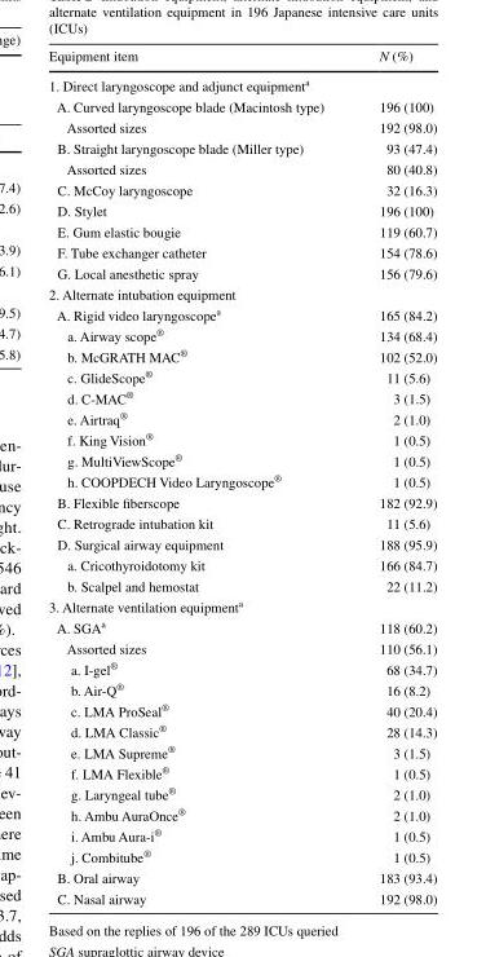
<table><thead><tr><td>Equipment item</td><td>N (%)</td></tr></thead><tbody><tr><td colspan="2">1. Direct laryngoscope and adjunct equipment<sup>a</sup></td></tr><tr><td>A. Curved laryngoscope blade (Macintosh type)</td><td>196 (100)</td></tr><tr><td>Assorted sizes</td><td>192 (98.0)</td></tr><tr><td>B. Straight laryngoscope blade (Miller type)</td><td>93 (47.4)</td></tr><tr><td>Assorted sizes</td><td>80 (40.8)</td></tr><tr><td>C. McCoy laryngoscope</td><td>32 (16.3)</td></tr><tr><td>D. Stylet</td><td>196 (100)</td></tr><tr><td>E. Gum elastic bougie</td><td>119 (60.7)</td></tr><tr><td>F. Tube exchanger catheter</td><td>154 (78.6)</td></tr><tr><td>G. Local anesthetic spray</td><td>156 (79.6)</td></tr><tr><td colspan="2">2. Alternate intubation equipment</td></tr><tr><td>A. Rigid video laryngoscope<sup>a</sup></td><td>165 (84.2)</td></tr><tr><td>a. Airway scope<sup>®</sup></td><td>134 (68.4)</td></tr><tr><td>b. McGRATH MAC<sup>®</sup></td><td>102 (52.0)</td></tr><tr><td>c. GlideScope<sup>®</sup></td><td>11 (5.6)</td></tr><tr><td>d. C-MAC<sup>®</sup></td><td>3 (1.5)</td></tr><tr><td>e. Airtraq<sup>®</sup></td><td>2 (1.0)</td></tr><tr><td>f. King Vision<sup>®</sup></td><td>1 (0.5)</td></tr><tr><td>g. MultiViewScope<sup>®</sup></td><td>1 (0.5)</td></tr><tr><td>h. COOPDECH Video Laryngoscope<sup>®</sup></td><td>1 (0.5)</td></tr><tr><td>B. Flexible fiberscope</td><td>182 (92.9)</td></tr><tr><td>C. Retrograde intubation kit</td><td>11 (5.6)</td></tr><tr><td>D. Surgical airway equipment</td><td>188 (95.9)</td></tr><tr><td>a. Cricothyroidotomy kit</td><td>166 (84.7)</td></tr><tr><td>b. Scalpel and hemostat</td><td>22 (11.2)</td></tr><tr><td colspan="2">3. Alternate ventilation equipment<sup>a</sup></td></tr><tr><td>A. SGA<sup>a</sup></td><td>118 (60.2)</td></tr><tr><td>Assorted sizes</td><td>110 (56.1)</td></tr><tr><td>a. I-gel<sup>®</sup></td><td>68 (34.7)</td></tr><tr><td>b. Air-Q<sup>®</sup></td><td>16 (8.2)</td></tr><tr><td>c. LMA ProSeal<sup>®</sup></td><td>40 (20.4)</td></tr><tr><td>d. LMA Classic<sup>®</sup></td><td>28 (14.3)</td></tr><tr><td>e. LMA Supreme<sup>®</sup></td><td>3 (1.5)</td></tr><tr><td>f. LMA Flexible<sup>®</sup></td><td>1 (0.5)</td></tr><tr><td>g. Laryngeal tube<sup>®</sup></td><td>2 (1.0)</td></tr><tr><td>h. Ambu AuraOnce<sup>®</sup></td><td>2 (1.0)</td></tr><tr><td>i. Ambu Aura-i<sup>®</sup></td><td>1 (0.5)</td></tr><tr><td>j. Combitube<sup>®</sup></td><td>1 (0.5)</td></tr><tr><td>B. Oral airway</td><td>183 (93.4)</td></tr><tr><td>C. Nasal airway</td><td>192 (98.0)</td></tr></tbody></table>